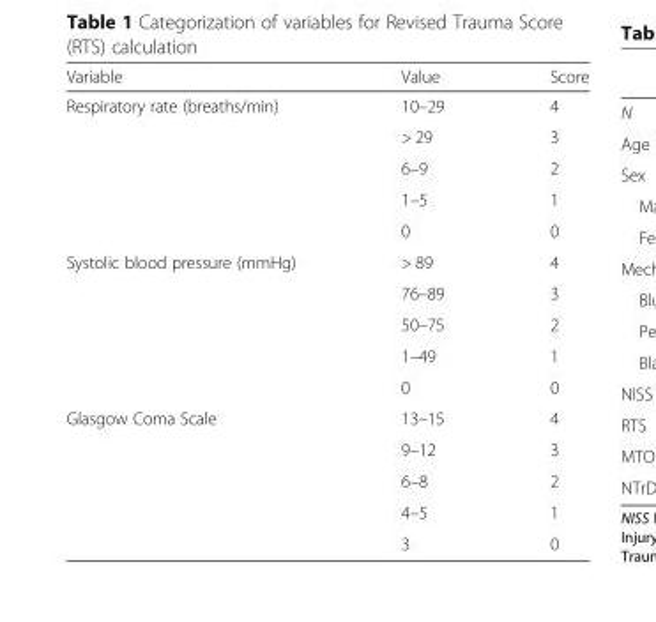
<table><thead><tr><td>Variable</td><td>Value</td><td>Score</td></tr></thead><tbody><tr><td rowspan="5">Respiratory rate (breaths/min)</td><td>10–29</td><td>4</td></tr><tr><td>&gt; 29</td><td>3</td></tr><tr><td>6–9</td><td>2</td></tr><tr><td>1–5</td><td>1</td></tr><tr><td>0</td><td>0</td></tr><tr><td rowspan="5">Systolic blood pressure (mmHg)</td><td>&gt; 89</td><td>4</td></tr><tr><td>76–89</td><td>3</td></tr><tr><td>50–75</td><td>2</td></tr><tr><td>1–49</td><td>1</td></tr><tr><td>0</td><td>0</td></tr><tr><td rowspan="5">Glasgow Coma Scale</td><td>13–15</td><td>4</td></tr><tr><td>9–12</td><td>3</td></tr><tr><td>6–8</td><td>2</td></tr><tr><td>4–5</td><td>1</td></tr><tr><td>3</td><td>0</td></tr></tbody></table>